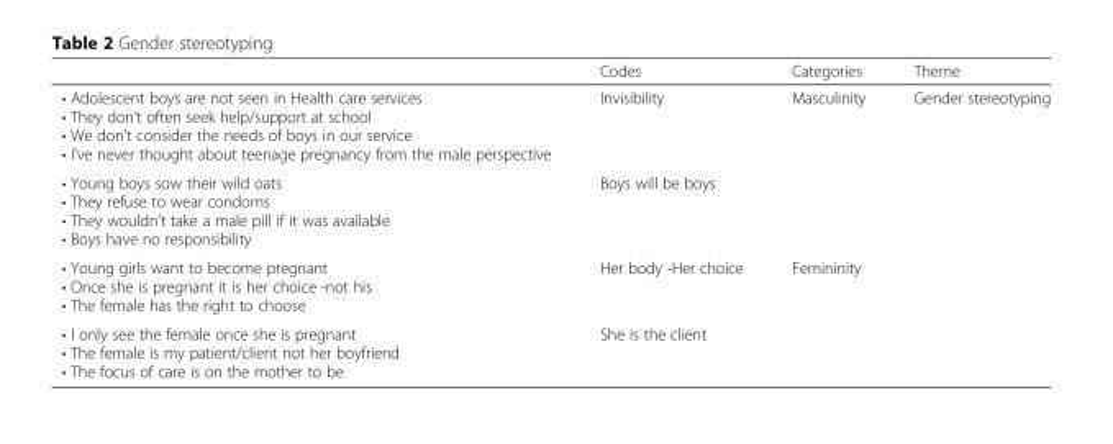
<table><thead><tr><td></td><td>Codes</td><td>Categories</td><td>Theme</td></tr></thead><tbody><tr><td>• Adolescent boys are not seen in Health care services • They don’t often seek help/support at school • We don’t consider the needs of boys in our service • I’ve never thought about teenage pregnancy from the male perspective</td><td>Invisibility</td><td rowspan="2">Masculinity</td><td rowspan="4">Gender stereotyping</td></tr><tr><td>• Young boys sow their wild oats • They refuse to wear condoms • They wouldn’t take a male pill if it was available • Boys have no responsibility</td><td>Boys will be boys</td></tr><tr><td>• Young girls want to become pregnant • Once she is pregnant it is her choice -not his • The female has the right to choose</td><td>Her body -Her choice</td><td rowspan="2">Femininity</td></tr><tr><td>• I only see the female once she is pregnant • The female is my patient/client not her boyfriend • The focus of care is on the mother to be</td><td>She is the client</td></tr></tbody></table>